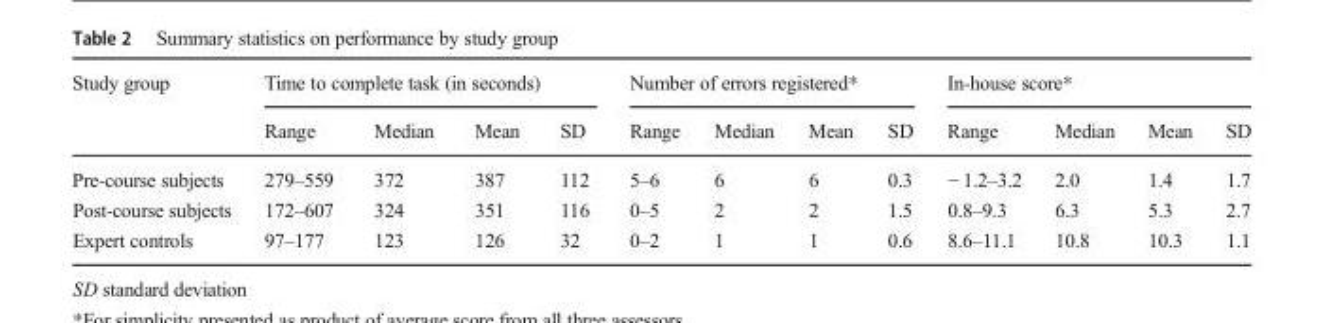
<table><thead><tr><td rowspan="2">Study group</td><td colspan="4">Time to complete task (in seconds)</td><td colspan="4">Number of errors registered*</td><td colspan="4">In-house score*</td></tr><tr><td>Range</td><td>Median</td><td>Mean</td><td>SD</td><td>Range</td><td>Median</td><td>Mean</td><td>SD</td><td>Range</td><td>Median</td><td>Mean</td><td>SD</td></tr></thead><tbody><tr><td>Pre-course subjects</td><td>279–559</td><td>372</td><td>387</td><td>112</td><td>5–6</td><td>6</td><td>6</td><td>0.3</td><td>− 1.2–3.2</td><td>2.0</td><td>1.4</td><td>1.7</td></tr><tr><td>Post-course subjects</td><td>172–607</td><td>324</td><td>351</td><td>116</td><td>0–5</td><td>2</td><td>2</td><td>1.5</td><td>0.8–9.3</td><td>6.3</td><td>5.3</td><td>2.7</td></tr><tr><td>Expert controls</td><td>97–177</td><td>123</td><td>126</td><td>32</td><td>0–2</td><td>1</td><td>1</td><td>0.6</td><td>8.6–11.1</td><td>10.8</td><td>10.3</td><td>1.1</td></tr></tbody></table>